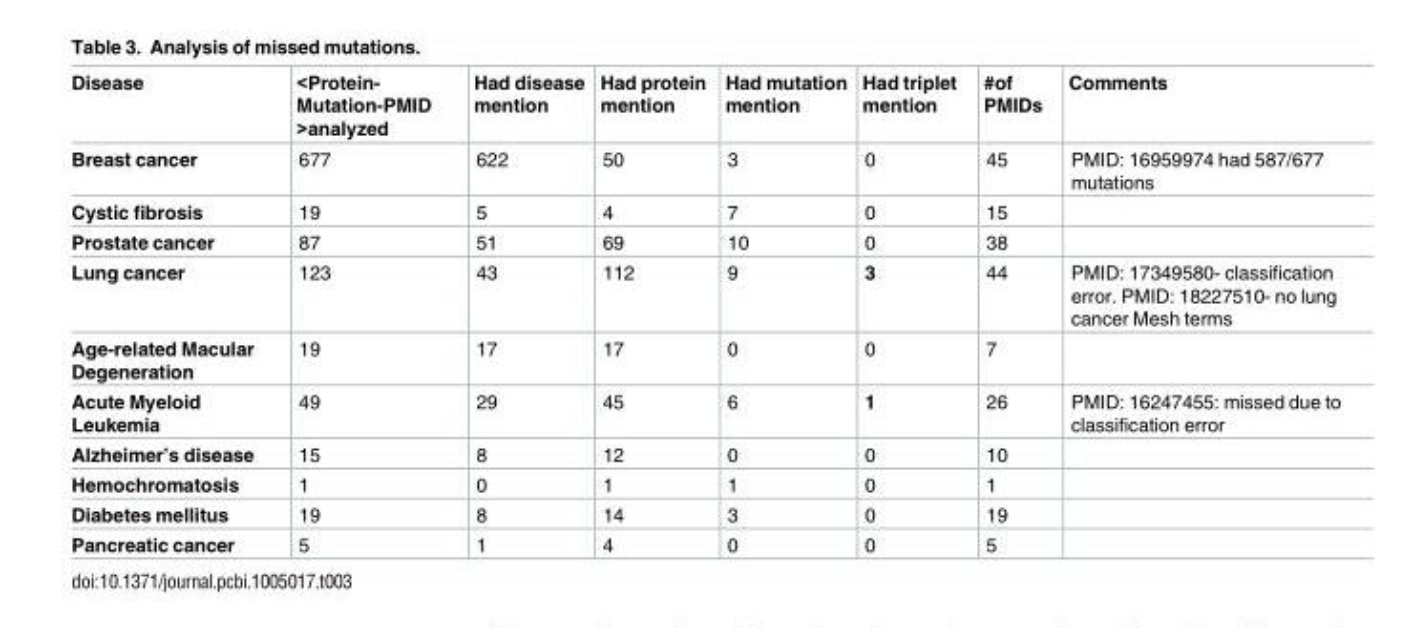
<table><thead><tr><td>Disease</td><td>&lt;Protein- Mutation-PMID &gt;analyzed</td><td>Had disease mention</td><td>Had protein mention</td><td>Had mutation mention</td><td>Had triplet mention</td><td>#of PMIDs</td><td>Comments</td></tr></thead><tbody><tr><td>Breast cancer</td><td>677</td><td>622</td><td>50</td><td>3</td><td>0</td><td>45</td><td>PMID: 16959974 had 587/677 mutations</td></tr><tr><td>Cystic fibrosis</td><td>19</td><td>5</td><td>4</td><td>7</td><td>0</td><td>15</td><td></td></tr><tr><td>Prostate cancer</td><td>87</td><td>51</td><td>69</td><td>10</td><td>0</td><td>38</td><td></td></tr><tr><td>Lung cancer</td><td>123</td><td>43</td><td>112</td><td>9</td><td>3</td><td>44</td><td>PMID: 17349580- classification error. PMID: 18227510- no lung cancer Mesh terms</td></tr><tr><td>Age-related Macular Degeneration</td><td>19</td><td>17</td><td>17</td><td>0</td><td>0</td><td>7</td><td></td></tr><tr><td>Acute Myeloid Leukemia</td><td>49</td><td>29</td><td>45</td><td>6</td><td>1</td><td>26</td><td>PMID: 16247455: missed due to classification error</td></tr><tr><td>Alzheimer’s disease</td><td>15</td><td>8</td><td>12</td><td>0</td><td>0</td><td>10</td><td></td></tr><tr><td>Hemochromatosis</td><td>1</td><td>0</td><td>1</td><td>1</td><td>0</td><td>1</td><td></td></tr><tr><td>Diabetes mellitus</td><td>19</td><td>8</td><td>14</td><td>3</td><td>0</td><td>19</td><td></td></tr><tr><td>Pancreatic cancer</td><td>5</td><td>1</td><td>4</td><td>0</td><td>0</td><td>5</td><td></td></tr></tbody></table>